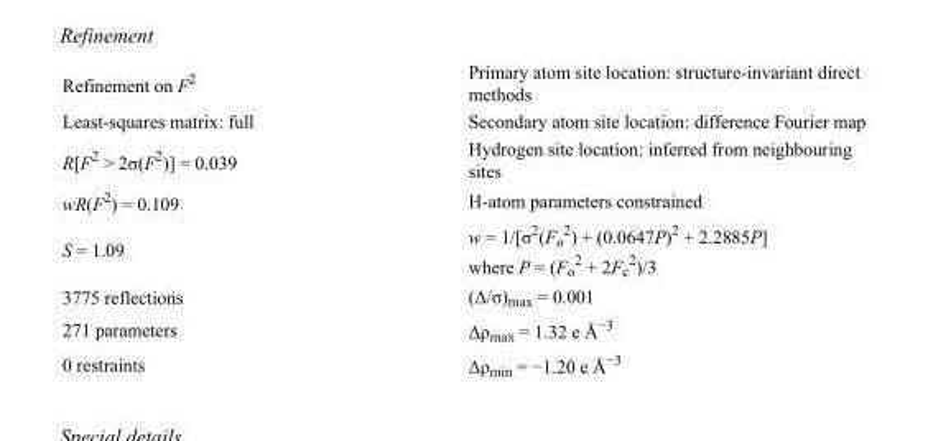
<table><tbody><tr><td>Refinement on F<sup>2</sup></td><td>Primary atom site location: structure-invariant direct methods</td></tr><tr><td>Least-squares matrix: full</td><td>Secondary atom site location: difference Fourier map</td></tr><tr><td>R[F<sup>2</sup> &gt; 2σ(F<sup>2</sup>)] = 0.039</td><td>Hydrogen site location: inferred from neighbouring sites</td></tr><tr><td>wR(F<sup>2</sup>) = 0.109</td><td>H-atom parameters constrained</td></tr><tr><td>S = 1.09</td><td>w = 1/[σ<sup>2</sup>(F<sub>o</sub> <sup>2</sup>) + (0.0647P)<sup>2</sup> + 2.2885P] where P = (F<sub>o</sub> <sup>2</sup> + 2F<sub>c</sub> <sup>2</sup>)/3</td></tr><tr><td>3775 reflections</td><td>(Δ/σ)<sub>max</sub> = 0.001</td></tr><tr><td>271 parameters</td><td>Δρ<sub>max</sub> = 1.32 e Å<sup>−3</sup></td></tr><tr><td>0 restraints</td><td>Δρ<sub>min</sub> = −1.20 e Å<sup>−3</sup></td></tr></tbody></table>